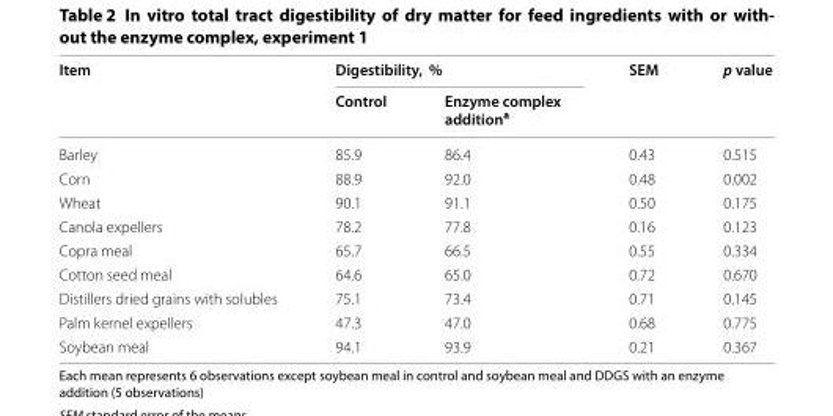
<table><thead><tr><td rowspan="2">Item</td><td colspan="2">Digestibility, %</td><td rowspan="2">SEM</td><td rowspan="2">p value</td></tr><tr><td>Control</td><td>Enzyme complex addition<sup>a</sup></td></tr></thead><tbody><tr><td>Barley</td><td>85.9</td><td>86.4</td><td>0.43</td><td>0.515</td></tr><tr><td>Corn</td><td>88.9</td><td>92.0</td><td>0.48</td><td>0.002</td></tr><tr><td>Wheat</td><td>90.1</td><td>91.1</td><td>0.50</td><td>0.175</td></tr><tr><td>Canola expellers</td><td>78.2</td><td>77.8</td><td>0.16</td><td>0.123</td></tr><tr><td>Copra meal</td><td>65.7</td><td>66.5</td><td>0.55</td><td>0.334</td></tr><tr><td>Cotton seed meal</td><td>64.6</td><td>65.0</td><td>0.72</td><td>0.670</td></tr><tr><td>Distillers dried grains with solubles</td><td>75.1</td><td>73.4</td><td>0.71</td><td>0.145</td></tr><tr><td>Palm kernel expellers</td><td>47.3</td><td>47.0</td><td>0.68</td><td>0.775</td></tr><tr><td>Soybean meal</td><td>94.1</td><td>93.9</td><td>0.21</td><td>0.367</td></tr></tbody></table>